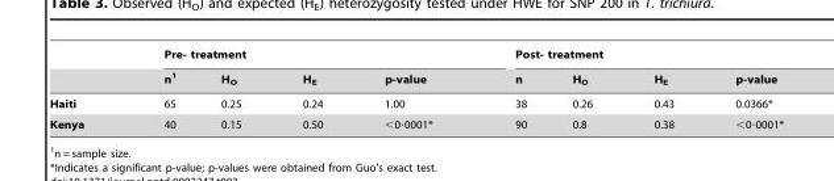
<table><thead><tr><td rowspan="2"></td><td colspan="4">Pre- treatment</td><td colspan="4">Post- treatment</td></tr><tr><td>n<sup>1</sup></td><td>H<sub>O</sub></td><td>H<sub>E</sub></td><td>p-value</td><td>n</td><td>H<sub>O</sub></td><td>H<sub>E</sub></td><td>p-value</td></tr></thead><tbody><tr><td>Haiti</td><td>65</td><td>0.25</td><td>0.24</td><td>1.00</td><td>38</td><td>0.26</td><td>0.43</td><td>0.0366*</td></tr><tr><td>Kenya</td><td>40</td><td>0.15</td><td>0.50</td><td>&lt;0·0001*</td><td>90</td><td>0.8</td><td>0.38</td><td>&lt;0·0001*</td></tr></tbody></table>